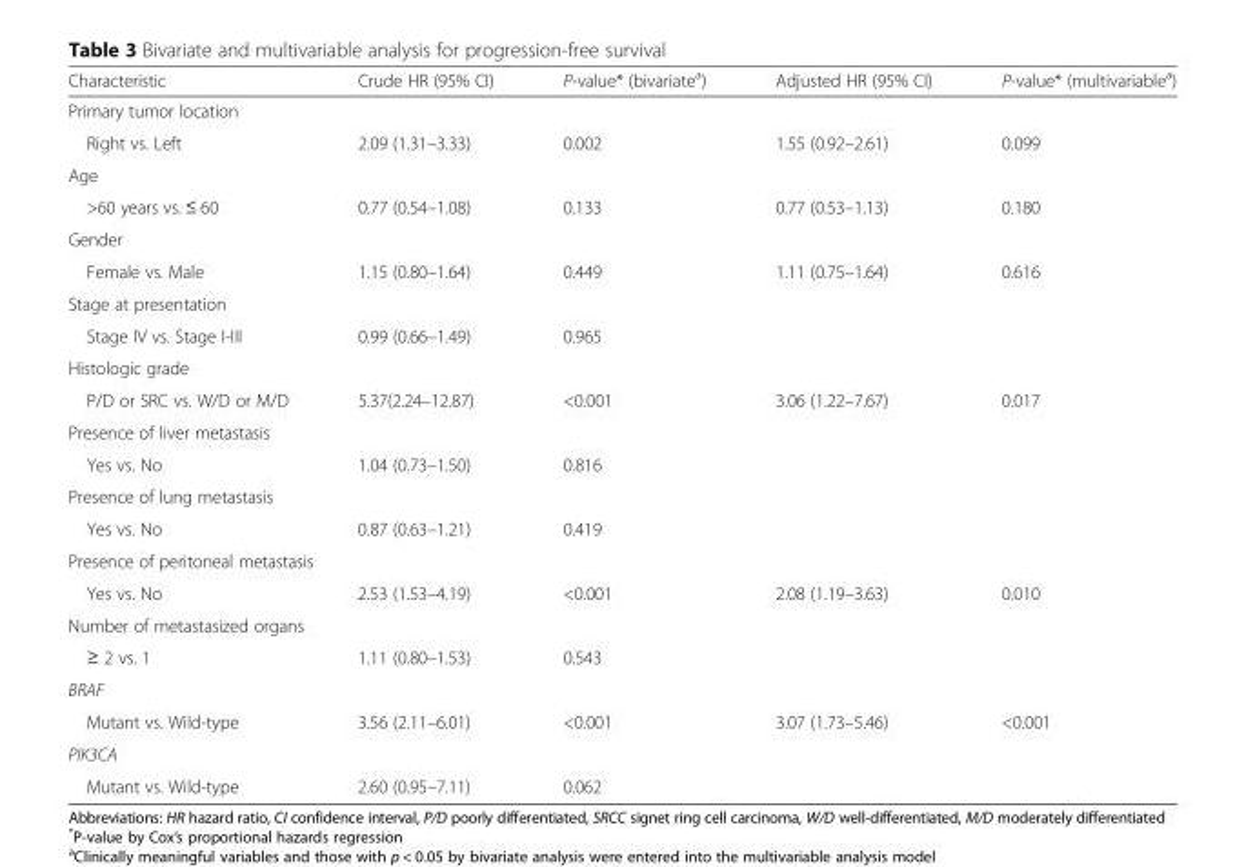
<table><thead><tr><td>Characteristic</td><td>Crude HR (95% CI)</td><td>P-value* (bivariate<sup>a</sup>)</td><td>Adjusted HR (95% CI)</td><td>P-value* (multivariable<sup>a</sup>)</td></tr></thead><tbody><tr><td colspan="5">Primary tumor location</td></tr><tr><td>Right vs. Left</td><td>2.09 (1.31–3.33)</td><td>0.002</td><td>1.55 (0.92–2.61)</td><td>0.099</td></tr><tr><td colspan="5">Age</td></tr><tr><td>&gt;60 years vs. ≤ 60</td><td>0.77 (0.54–1.08)</td><td>0.133</td><td>0.77 (0.53–1.13)</td><td>0.180</td></tr><tr><td colspan="5">Gender</td></tr><tr><td>Female vs. Male</td><td>1.15 (0.80–1.64)</td><td>0.449</td><td>1.11 (0.75–1.64)</td><td>0.616</td></tr><tr><td colspan="5">Stage at presentation</td></tr><tr><td>Stage IV vs. Stage I-III</td><td>0.99 (0.66–1.49)</td><td>0.965</td><td></td><td></td></tr><tr><td colspan="5">Histologic grade</td></tr><tr><td>P/D or SRC vs. W/D or M/D</td><td>5.37(2.24–12.87)</td><td>&lt;0.001</td><td>3.06 (1.22–7.67)</td><td>0.017</td></tr><tr><td colspan="5">Presence of liver metastasis</td></tr><tr><td>Yes vs. No</td><td>1.04 (0.73–1.50)</td><td>0.816</td><td></td><td></td></tr><tr><td colspan="5">Presence of lung metastasis</td></tr><tr><td>Yes vs. No</td><td>0.87 (0.63–1.21)</td><td>0.419</td><td></td><td></td></tr><tr><td colspan="5">Presence of peritoneal metastasis</td></tr><tr><td>Yes vs. No</td><td>2.53 (1.53–4.19)</td><td>&lt;0.001</td><td>2.08 (1.19–3.63)</td><td>0.010</td></tr><tr><td colspan="5">Number of metastasized organs</td></tr><tr><td>≥ 2 vs. 1</td><td>1.11 (0.80–1.53)</td><td>0.543</td><td></td><td></td></tr><tr><td colspan="5">BRAF</td></tr><tr><td>Mutant vs. Wild-type</td><td>3.56 (2.11–6.01)</td><td>&lt;0.001</td><td>3.07 (1.73–5.46)</td><td>&lt;0.001</td></tr><tr><td colspan="5">PIK3CA</td></tr><tr><td>Mutant vs. Wild-type</td><td>2.60 (0.95–7.11)</td><td>0.062</td><td></td><td></td></tr></tbody></table>